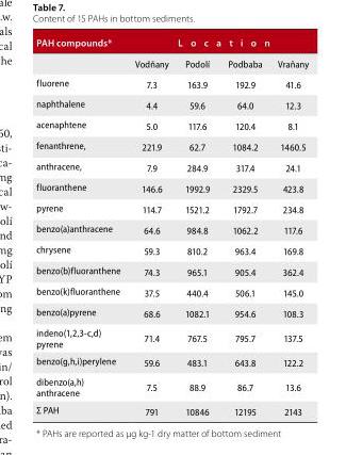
<table><thead><tr><td rowspan="2">PaH compounds*</td><td colspan="4">l o c a t i o n</td></tr><tr><td>Vodňany</td><td>Podolí</td><td>Podbaba</td><td>Vraňany</td></tr></thead><tbody><tr><td>fluorene</td><td>7.3</td><td>163.9</td><td>192.9</td><td>41.6</td></tr><tr><td>naphthalene</td><td>4.4</td><td>59.6</td><td>64.0</td><td>12.3</td></tr><tr><td>acenaphtene</td><td>5.0</td><td>117.6</td><td>120.4</td><td>8.1</td></tr><tr><td>fenanthrene,</td><td>221.9</td><td>62.7</td><td>1084.2</td><td>1460.5</td></tr><tr><td>anthracene,</td><td>7.9</td><td>284.9</td><td>317.4</td><td>24.1</td></tr><tr><td>fluoranthene</td><td>146.6</td><td>1992.9</td><td>2329.5</td><td>423.8</td></tr><tr><td>pyrene</td><td>114.7</td><td>1521.2</td><td>1792.7</td><td>234.8</td></tr><tr><td>benzo(a)anthracene</td><td>64.6</td><td>984.8</td><td>1062.2</td><td>117.6</td></tr><tr><td>chrysene</td><td>59.3</td><td>810.2</td><td>963.4</td><td>169.8</td></tr><tr><td>benzo(b)fluoranthene</td><td>74.3</td><td>965.1</td><td>905.4</td><td>362.4</td></tr><tr><td>benzo(k)fluoranthene</td><td>37.5</td><td>440.4</td><td>506.1</td><td>145.0</td></tr><tr><td>benzo(a)pyrene</td><td>68.6</td><td>1082.1</td><td>954.6</td><td>108.3</td></tr><tr><td>indeno(1,2,3-c,d) pyrene</td><td>71.4</td><td>767.5</td><td>795.7</td><td>137.5</td></tr><tr><td>benzo(g,h,i)perylene</td><td>59.6</td><td>483.1</td><td>643.8</td><td>122.2</td></tr><tr><td>dibenzo(a,h) anthracene</td><td>7.5</td><td>88.9</td><td>86.7</td><td>13.6</td></tr><tr><td>Σ PAH</td><td>791</td><td>10846</td><td>12195</td><td>2143</td></tr></tbody></table>